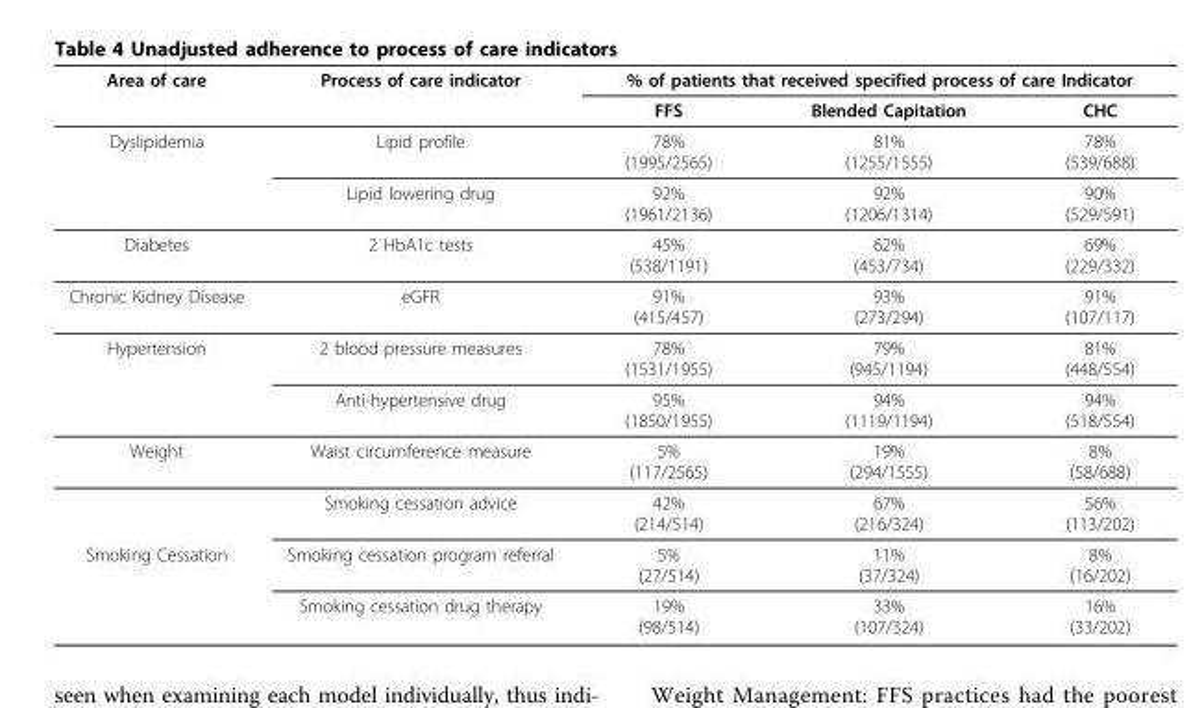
<table><thead><tr><td rowspan="2">Area of care</td><td rowspan="2">Process of care indicator</td><td colspan="3">% of patients that received specified process of care Indicator</td></tr><tr><td>FFS</td><td>Blended Capitation</td><td>CHC</td></tr></thead><tbody><tr><td rowspan="2">Dyslipidemia</td><td>Lipid profile</td><td>78% (1995/2565)</td><td>81% (1255/1555)</td><td>78% (539/688)</td></tr><tr><td>Lipid lowering drug</td><td>92% (1961/2136)</td><td>92% (1206/1314)</td><td>90% (529/591)</td></tr><tr><td>Diabetes</td><td>2 HbA1c tests</td><td>45% (538/1191)</td><td>62% (453/734)</td><td>69% (229/332)</td></tr><tr><td>Chronic Kidney Disease</td><td>eGFR</td><td>91% (415/457)</td><td>93% (273/294)</td><td>91% (107/117)</td></tr><tr><td rowspan="2">Hypertension</td><td>2 blood pressure measures</td><td>78% (1531/1955)</td><td>79% (945/1194)</td><td>81% (448/554)</td></tr><tr><td>Anti-hypertensive drug</td><td>95% (1850/1955)</td><td>94% (1119/1194)</td><td>94% (518/554)</td></tr><tr><td rowspan="2">Weight</td><td>Waist circumference measure</td><td>5% (117/2565)</td><td>19% (294/1555)</td><td>8% (58/688)</td></tr><tr><td>Smoking cessation advice</td><td>42% (214/514)</td><td>67% (216/324)</td><td>56% (113/202)</td></tr><tr><td rowspan="2">Smoking Cessation</td><td>Smoking cessation program referral</td><td>5% (27/514)</td><td>11% (37/324)</td><td>8% (16/202)</td></tr><tr><td>Smoking cessation drug therapy</td><td>19% (98/514)</td><td>33% (107/324)</td><td>16% (33/202)</td></tr></tbody></table>